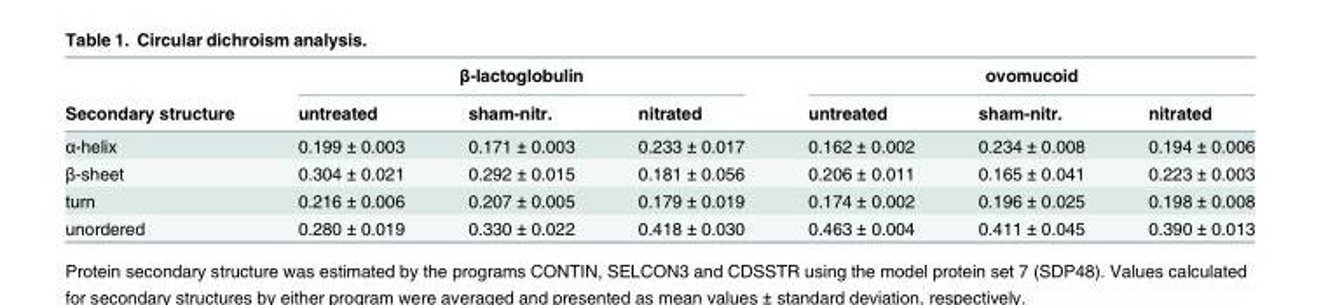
<table><thead><tr><td rowspan="2">Secondary structure</td><td colspan="3">β-lactoglobulin</td><td colspan="3">ovomucoid</td></tr><tr><td>untreated</td><td>sham-nitr.</td><td>nitrated</td><td>untreated</td><td>sham-nitr.</td><td>nitrated</td></tr></thead><tbody><tr><td>α-helix</td><td>0.199 ± 0.003</td><td>0.171 ± 0.003</td><td>0.233 ± 0.017</td><td>0.162 ± 0.002</td><td>0.234 ± 0.008</td><td>0.194 ± 0.006</td></tr><tr><td>β-sheet</td><td>0.304 ± 0.021</td><td>0.292 ± 0.015</td><td>0.181 ± 0.056</td><td>0.206 ± 0.011</td><td>0.165 ± 0.041</td><td>0.223 ± 0.003</td></tr><tr><td>turn</td><td>0.216 ± 0.006</td><td>0.207 ± 0.005</td><td>0.179 ± 0.019</td><td>0.174 ± 0.002</td><td>0.196 ± 0.025</td><td>0.198 ± 0.008</td></tr><tr><td>unordered</td><td>0.280 ± 0.019</td><td>0.330 ± 0.022</td><td>0.418 ± 0.030</td><td>0.463 ± 0.004</td><td>0.411 ± 0.045</td><td>0.390 ± 0.013</td></tr></tbody></table>